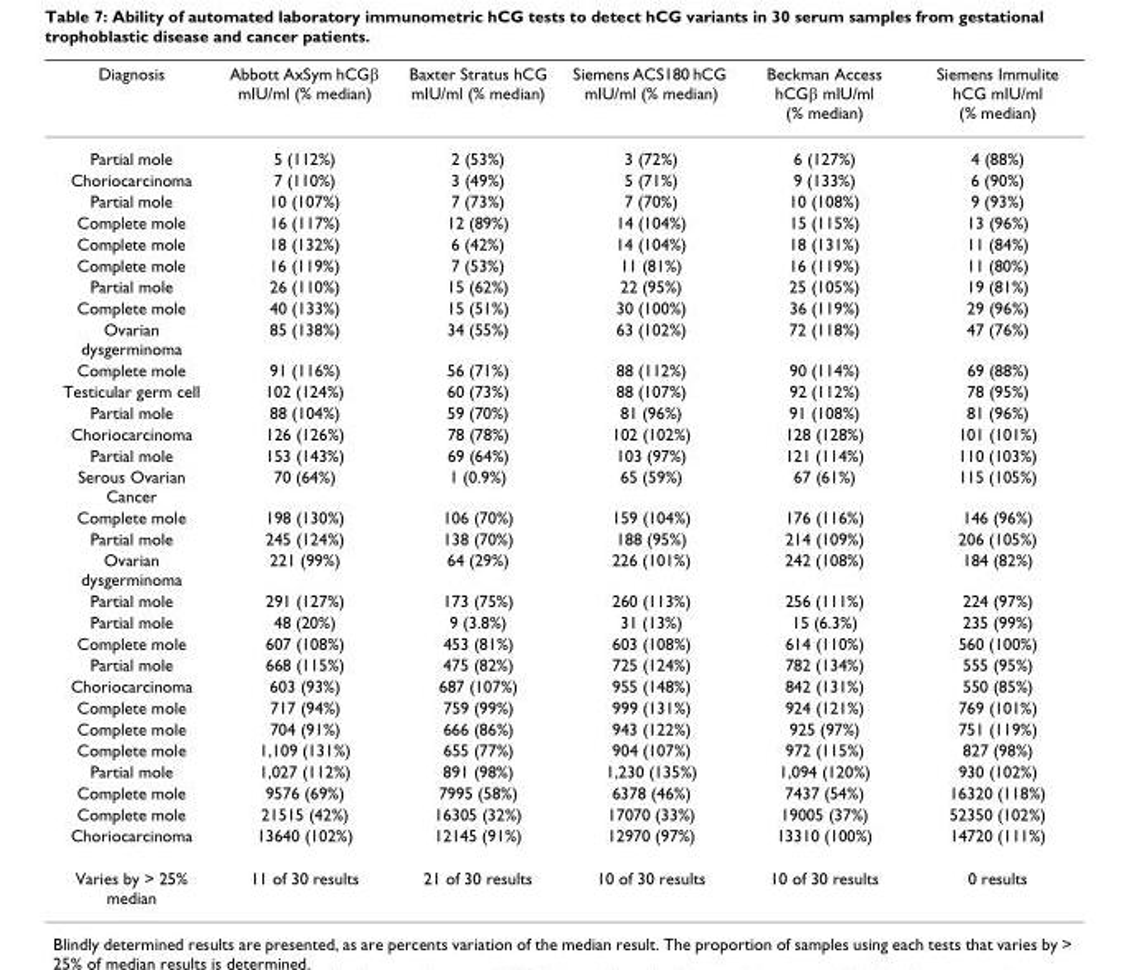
<table><thead><tr><td>Diagnosis</td><td>Abbott AxSym hCGβ mIU/ml (% median)</td><td>Baxter Stratus hCG mIU/ml (% median)</td><td>Siemens ACS180 hCG mIU/ml (% median)</td><td>Beckman Access hCGβ mIU/ml (% median)</td><td>Siemens Immulite hCG mIU/ml (% median)</td></tr></thead><tbody><tr><td>Partial mole</td><td>5 (112%)</td><td>2 (53%)</td><td>3 (72%)</td><td>6 (127%)</td><td>4 (88%)</td></tr><tr><td>Choriocarcinoma</td><td>7 (110%)</td><td>3 (49%)</td><td>5 (71%)</td><td>9 (133%)</td><td>6 (90%)</td></tr><tr><td>Partial mole</td><td>10 (107%)</td><td>7 (73%)</td><td>7 (70%)</td><td>10 (108%)</td><td>9 (93%)</td></tr><tr><td>Complete mole</td><td>16 (117%)</td><td>12 (89%)</td><td>14 (104%)</td><td>15 (115%)</td><td>13 (96%)</td></tr><tr><td>Complete mole</td><td>18 (132%)</td><td>6 (42%)</td><td>14 (104%)</td><td>18 (131%)</td><td>11 (84%)</td></tr><tr><td>Complete mole</td><td>16 (119%)</td><td>7 (53%)</td><td>11 (81%)</td><td>16 (119%)</td><td>11 (80%)</td></tr><tr><td>Partial mole</td><td>26 (110%)</td><td>15 (62%)</td><td>22 (95%)</td><td>25 (105%)</td><td>19 (81%)</td></tr><tr><td>Complete mole</td><td>40 (133%)</td><td>15 (51%)</td><td>30 (100%)</td><td>36 (119%)</td><td>29 (96%)</td></tr><tr><td>Ovarian dysgerminoma</td><td>85 (138%)</td><td>34 (55%)</td><td>63 (102%)</td><td>72 (118%)</td><td>47 (76%)</td></tr><tr><td>Complete mole</td><td>91 (116%)</td><td>56 (71%)</td><td>88 (112%)</td><td>90 (114%)</td><td>69 (88%)</td></tr><tr><td>Testicular germ cell</td><td>102 (124%)</td><td>60 (73%)</td><td>88 (107%)</td><td>92 (112%)</td><td>78 (95%)</td></tr><tr><td>Partial mole</td><td>88 (104%)</td><td>59 (70%)</td><td>81 (96%)</td><td>91 (108%)</td><td>81 (96%)</td></tr><tr><td>Choriocarcinoma</td><td>126 (126%)</td><td>78 (78%)</td><td>102 (102%)</td><td>128 (128%)</td><td>101 (101%)</td></tr><tr><td>Partial mole</td><td>153 (143%)</td><td>69 (64%)</td><td>103 (97%)</td><td>121 (114%)</td><td>110 (103%)</td></tr><tr><td>Serous Ovarian Cancer</td><td>70 (64%)</td><td>1 (0.9%)</td><td>65 (59%)</td><td>67 (61%)</td><td>115 (105%)</td></tr><tr><td>Complete mole</td><td>198 (130%)</td><td>106 (70%)</td><td>159 (104%)</td><td>176 (116%)</td><td>146 (96%)</td></tr><tr><td>Partial mole</td><td>245 (124%)</td><td>138 (70%)</td><td>188 (95%)</td><td>214 (109%)</td><td>206 (105%)</td></tr><tr><td>Ovarian dysgerminoma</td><td>221 (99%)</td><td>64 (29%)</td><td>226 (101%)</td><td>242 (108%)</td><td>184 (82%)</td></tr><tr><td>Partial mole</td><td>291 (127%)</td><td>173 (75%)</td><td>260 (113%)</td><td>256 (111%)</td><td>224 (97%)</td></tr><tr><td>Partial mole</td><td>48 (20%)</td><td>9 (3.8%)</td><td>31 (13%)</td><td>15 (6.3%)</td><td>235 (99%)</td></tr><tr><td>Complete mole</td><td>607 (108%)</td><td>453 (81%)</td><td>603 (108%)</td><td>614 (110%)</td><td>560 (100%)</td></tr><tr><td>Partial mole</td><td>668 (115%)</td><td>475 (82%)</td><td>725 (124%)</td><td>782 (134%)</td><td>555 (95%)</td></tr><tr><td>Choriocarcinoma</td><td>603 (93%)</td><td>687 (107%)</td><td>955 (148%)</td><td>842 (131%)</td><td>550 (85%)</td></tr><tr><td>Complete mole</td><td>717 (94%)</td><td>759 (99%)</td><td>999 (131%)</td><td>924 (121%)</td><td>769 (101%)</td></tr><tr><td>Complete mole</td><td>704 (91%)</td><td>666 (86%)</td><td>943 (122%)</td><td>925 (97%)</td><td>751 (119%)</td></tr><tr><td>Complete mole</td><td>1,109 (131%)</td><td>655 (77%)</td><td>904 (107%)</td><td>972 (115%)</td><td>827 (98%)</td></tr><tr><td>Partial mole</td><td>1,027 (112%)</td><td>891 (98%)</td><td>1,230 (135%)</td><td>1,094 (120%)</td><td>930 (102%)</td></tr><tr><td>Complete mole</td><td>9576 (69%)</td><td>7995 (58%)</td><td>6378 (46%)</td><td>7437 (54%)</td><td>16320 (118%)</td></tr><tr><td>Complete mole</td><td>21515 (42%)</td><td>16305 (32%)</td><td>17070 (33%)</td><td>19005 (37%)</td><td>52350 (102%)</td></tr><tr><td>Choriocarcinoma</td><td>13640 (102%)</td><td>12145 (91%)</td><td>12970 (97%)</td><td>13310 (100%)</td><td>14720 (111%)</td></tr><tr><td>Varies by &gt; 25% median</td><td>11 of 30 results</td><td>21 of 30 results</td><td>10 of 30 results</td><td>10 of 30 results</td><td>0 results</td></tr></tbody></table>